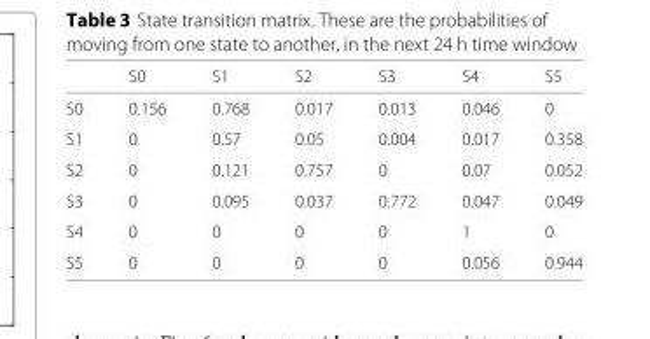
<table><thead><tr><td></td><td>S0</td><td>S1</td><td>S2</td><td>S3</td><td>S4</td><td>S5</td></tr></thead><tbody><tr><td>S0</td><td>0.156</td><td>0.768</td><td>0.017</td><td>0.013</td><td>0.046</td><td>0</td></tr><tr><td>S1</td><td>0</td><td>0.57</td><td>0.05</td><td>0.004</td><td>0.017</td><td>0.358</td></tr><tr><td>S2</td><td>0</td><td>0.121</td><td>0.757</td><td>0</td><td>0.07</td><td>0.052</td></tr><tr><td>S3</td><td>0</td><td>0.095</td><td>0.037</td><td>0.772</td><td>0.047</td><td>0.049</td></tr><tr><td>S4</td><td>0</td><td>0</td><td>0</td><td>0</td><td>1</td><td>0</td></tr><tr><td>S5</td><td>0</td><td>0</td><td>0</td><td>0</td><td>0.056</td><td>0.944</td></tr></tbody></table>